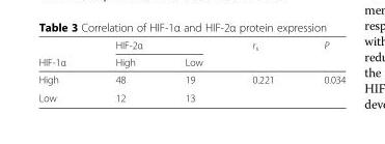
<table><thead><tr><td rowspan="2">HIF-1α</td><td colspan="2">HIF-2α</td><td rowspan="2">r<sub>s</sub></td><td rowspan="2">P</td></tr><tr><td>High</td><td>Low</td></tr></thead><tbody><tr><td>High</td><td>48</td><td>19</td><td>0.221</td><td>0.034</td></tr><tr><td>Low</td><td>12</td><td>13</td><td></td><td></td></tr></tbody></table>